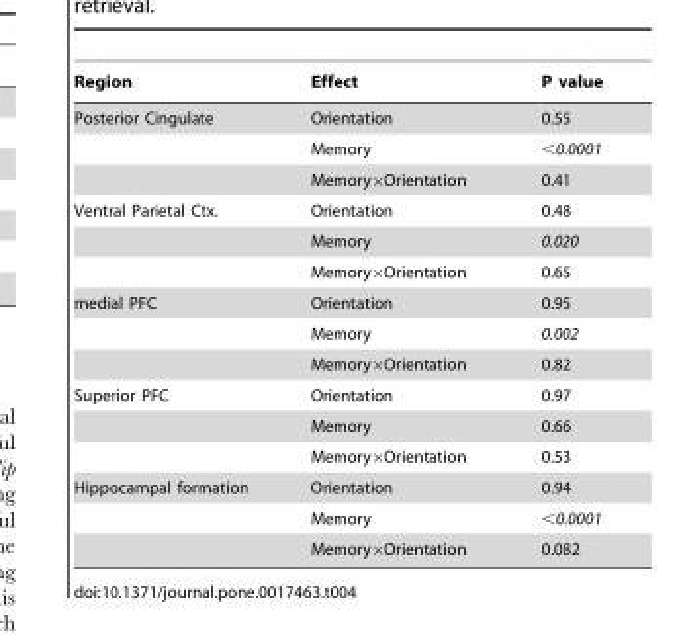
<table><thead><tr><td>Region</td><td>Effect</td><td>P value</td></tr></thead><tbody><tr><td rowspan="3">Posterior Cingulate</td><td>Orientation</td><td>0.55</td></tr><tr><td>Memory</td><td>&lt;0.0001</td></tr><tr><td>Memory×Orientation</td><td>0.41</td></tr><tr><td rowspan="3">Ventral Parietal Ctx.</td><td>Orientation</td><td>0.48</td></tr><tr><td>Memory</td><td>0.020</td></tr><tr><td>Memory×Orientation</td><td>0.65</td></tr><tr><td rowspan="3">medial PFC</td><td>Orientation</td><td>0.95</td></tr><tr><td>Memory</td><td>0.002</td></tr><tr><td>Memory×Orientation</td><td>0.82</td></tr><tr><td rowspan="3">Superior PFC</td><td>Orientation</td><td>0.97</td></tr><tr><td>Memory</td><td>0.66</td></tr><tr><td>Memory×Orientation</td><td>0.53</td></tr><tr><td rowspan="3">Hippocampal formation</td><td>Orientation</td><td>0.94</td></tr><tr><td>Memory</td><td>&lt;0.0001</td></tr><tr><td>Memory×Orientation</td><td>0.082</td></tr></tbody></table>